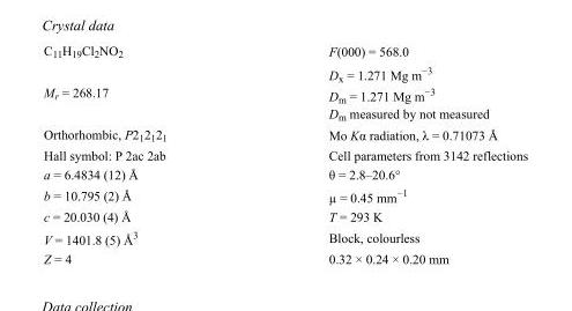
<table><tbody><tr><td>C<sub>11</sub>H<sub>19</sub>Cl<sub>2</sub>NO<sub>2</sub></td><td>F(000) = 568.0</td></tr><tr><td>M<sub>r</sub> = 268.17</td><td>D<sub>x</sub> = 1.271 Mg m<sup>−3</sup> D<sub>m</sub> = 1.271 Mg m<sup>−3</sup> D<sub>m</sub> measured by not measured</td></tr><tr><td>Orthorhombic, P2<sub>1</sub>2<sub>1</sub>2<sub>1</sub></td><td>Mo Kα radiation, λ = 0.71073 Å</td></tr><tr><td>Hall symbol: P 2ac 2ab</td><td>Cell parameters from 3142 reflections</td></tr><tr><td>a = 6.4834 (12) Å</td><td>θ = 2.8–20.6°</td></tr><tr><td>b = 10.795 (2) Å</td><td>µ = 0.45 mm<sup>−1</sup></td></tr><tr><td>c = 20.030 (4) Å</td><td>T = 293 K</td></tr><tr><td>V = 1401.8 (5) Å<sup>3</sup></td><td>Block, colourless</td></tr><tr><td>Z = 4</td><td>0.32 × 0.24 × 0.20 mm</td></tr></tbody></table>